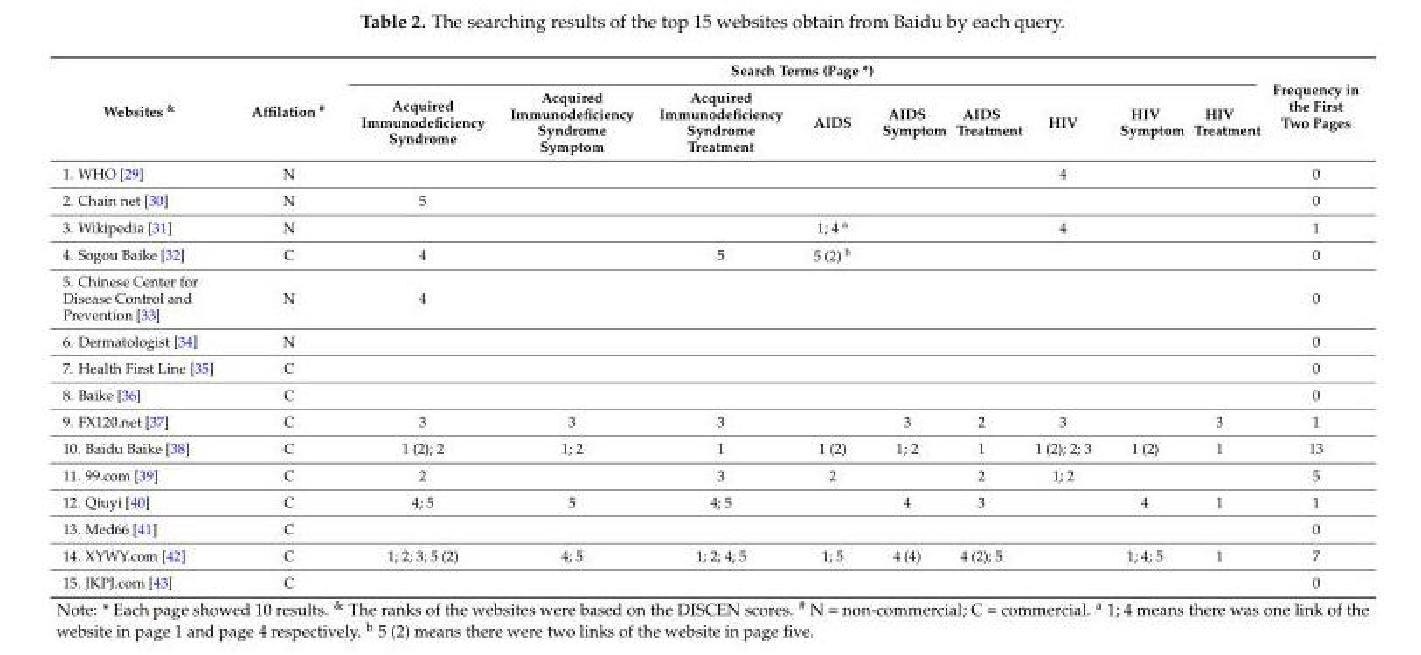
<table><thead><tr><td rowspan="2">Websites <sup>&amp;</sup></td><td rowspan="2">Affilation <sup>#</sup></td><td colspan="9">Search Terms (Page *)</td><td rowspan="2">Frequency in the First Two Pages</td></tr><tr><td>Acquired Immunodeficiency Syndrome</td><td>Acquired Immunodeficiency Syndrome Symptom</td><td>Acquired Immunodeficiency Syndrome Treatment</td><td>AIDS</td><td>AIDS Symptom</td><td>AIDS Treatment</td><td>HIV</td><td>HIV Symptom</td><td>HIV Treatment</td></tr></thead><tbody><tr><td>1. WHO [29]</td><td>N</td><td></td><td></td><td></td><td></td><td></td><td></td><td>4</td><td></td><td></td><td>0</td></tr><tr><td>2. Chain net [30]</td><td>N</td><td>5</td><td></td><td></td><td></td><td></td><td></td><td></td><td></td><td></td><td>0</td></tr><tr><td>3. Wikipedia [31]</td><td>N</td><td></td><td></td><td></td><td>1; 4 <sup>a</sup></td><td></td><td></td><td>4</td><td></td><td></td><td>1</td></tr><tr><td>4. Sogou Baike [32]</td><td>C</td><td>4</td><td></td><td>5</td><td>5 (2) <sup>b</sup></td><td></td><td></td><td></td><td></td><td></td><td>0</td></tr><tr><td>5. Chinese Center for Disease Control and Prevention [33]</td><td>N</td><td>4</td><td></td><td></td><td></td><td></td><td></td><td></td><td></td><td></td><td>0</td></tr><tr><td>6. Dermatologist [34]</td><td>N</td><td></td><td></td><td></td><td></td><td></td><td></td><td></td><td></td><td></td><td>0</td></tr><tr><td>7. Health First Line [35]</td><td>C</td><td></td><td></td><td></td><td></td><td></td><td></td><td></td><td></td><td></td><td>0</td></tr><tr><td>8. Baike [36]</td><td>C</td><td></td><td></td><td></td><td></td><td></td><td></td><td></td><td></td><td></td><td>0</td></tr><tr><td>9. FX120.net [37]</td><td>C</td><td>3</td><td>3</td><td>3</td><td></td><td>3</td><td>2</td><td>3</td><td></td><td>3</td><td>1</td></tr><tr><td>10. Baidu Baike [38]</td><td>C</td><td>1 (2); 2</td><td>1; 2</td><td>1</td><td>1 (2)</td><td>1; 2</td><td>1</td><td>1 (2); 2; 3</td><td>1 (2)</td><td>1</td><td>13</td></tr><tr><td>11. 99.com [39]</td><td>C</td><td>2</td><td></td><td>3</td><td>2</td><td></td><td>2</td><td>1; 2</td><td></td><td></td><td>5</td></tr><tr><td>12. Qiuyi [40]</td><td>C</td><td>4; 5</td><td>5</td><td>4; 5</td><td></td><td>4</td><td>3</td><td></td><td>4</td><td>1</td><td>1</td></tr><tr><td>13. Med66 [41]</td><td>C</td><td></td><td></td><td></td><td></td><td></td><td></td><td></td><td></td><td></td><td>0</td></tr><tr><td>14. XYWY.com [42]</td><td>C</td><td>1; 2; 3; 5 (2)</td><td>4; 5</td><td>1; 2; 4; 5</td><td>1; 5</td><td>4 (4)</td><td>4 (2); 5</td><td></td><td>1; 4; 5</td><td>1</td><td>7</td></tr><tr><td>15. JKPJ.com [43]</td><td>C</td><td></td><td></td><td></td><td></td><td></td><td></td><td></td><td></td><td></td><td>0</td></tr></tbody></table>